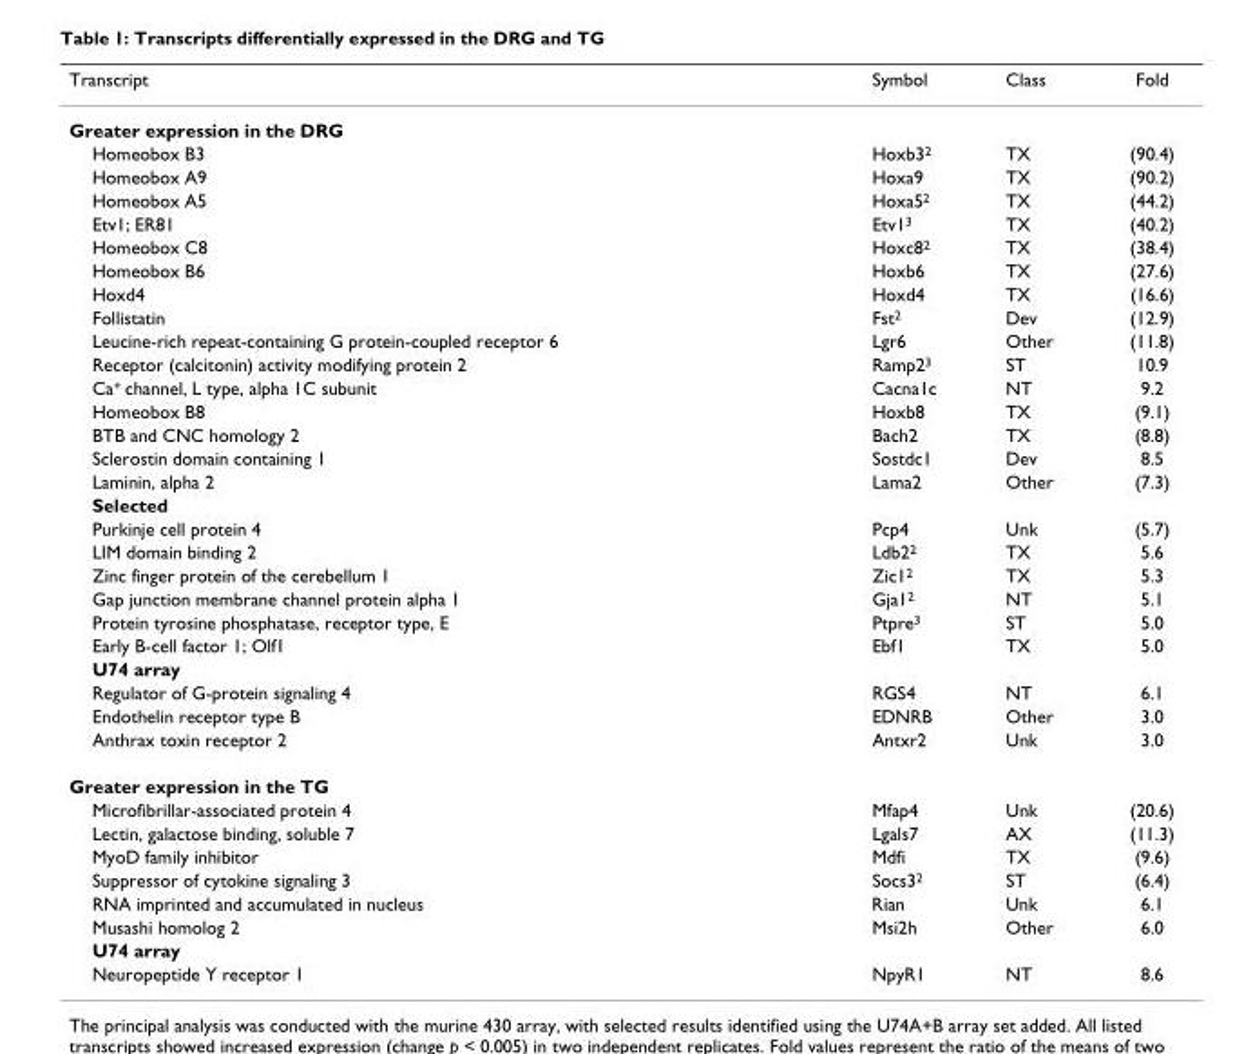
<table><thead><tr><td>Transcript</td><td>Symbol</td><td>Class</td><td>Fold</td></tr></thead><tbody><tr><td colspan="4">Greater expression in the DRG</td></tr><tr><td>Homeobox B3</td><td>Hoxb3<sup>2</sup></td><td>TX</td><td>(90.4)</td></tr><tr><td>Homeobox A9</td><td>Hoxa9</td><td>TX</td><td>(90.2)</td></tr><tr><td>Homeobox A5</td><td>Hoxa5<sup>2</sup></td><td>TX</td><td>(44.2)</td></tr><tr><td>Etv1; ER81</td><td>Etv1<sup>3</sup></td><td>TX</td><td>(40.2)</td></tr><tr><td>Homeobox C8</td><td>Hoxc8<sup>2</sup></td><td>TX</td><td>(38.4)</td></tr><tr><td>Homeobox B6</td><td>Hoxb6</td><td>TX</td><td>(27.6)</td></tr><tr><td>Hoxd4</td><td>Hoxd4</td><td>TX</td><td>(16.6)</td></tr><tr><td>Follistatin</td><td>Fst<sup>2</sup></td><td>Dev</td><td>(12.9)</td></tr><tr><td>Leucine-rich repeat-containing G protein-coupled receptor 6</td><td>Lgr6</td><td>Other</td><td>(11.8)</td></tr><tr><td>Receptor (calcitonin) activity modifying protein 2</td><td>Ramp2<sup>3</sup></td><td>ST</td><td>10.9</td></tr><tr><td>Ca<sup>+</sup> channel, L type, alpha 1C subunit</td><td>Cacna1c</td><td>NT</td><td>9.2</td></tr><tr><td>Homeobox B8</td><td>Hoxb8</td><td>TX</td><td>(9.1)</td></tr><tr><td>BTB and CNC homology 2</td><td>Bach2</td><td>TX</td><td>(8.8)</td></tr><tr><td>Sclerostin domain containing 1</td><td>Sostdc1</td><td>Dev</td><td>8.5</td></tr><tr><td>Laminin, alpha 2</td><td>Lama2</td><td>Other</td><td>(7.3)</td></tr><tr><td colspan="4">Selected</td></tr><tr><td>Purkinje cell protein 4</td><td>Pcp4</td><td>Unk</td><td>(5.7)</td></tr><tr><td>LIM domain binding 2</td><td>Ldb2<sup>2</sup></td><td>TX</td><td>5.6</td></tr><tr><td>Zinc finger protein of the cerebellum 1</td><td>Zic1<sup>2</sup></td><td>TX</td><td>5.3</td></tr><tr><td>Gap junction membrane channel protein alpha 1</td><td>Gja1<sup>2</sup></td><td>NT</td><td>5.1</td></tr><tr><td>Protein tyrosine phosphatase, receptor type, E</td><td>Ptpre<sup>3</sup></td><td>ST</td><td>5.0</td></tr><tr><td>Early B-cell factor 1; Olf1</td><td>Ebf1</td><td>TX</td><td>5.0</td></tr><tr><td colspan="4">U74 array</td></tr><tr><td>Regulator of G-protein signaling 4</td><td>RGS4</td><td>NT</td><td>6.1</td></tr><tr><td>Endothelin receptor type B</td><td>EDNRB</td><td>Other</td><td>3.0</td></tr><tr><td>Anthrax toxin receptor 2</td><td>Antxr2</td><td>Unk</td><td>3.0</td></tr><tr><td colspan="4">Greater expression in the TG</td></tr><tr><td>Microfibrillar-associated protein 4</td><td>Mfap4</td><td>Unk</td><td>(20.6)</td></tr><tr><td>Lectin, galactose binding, soluble 7</td><td>Lgals7</td><td>AX</td><td>(11.3)</td></tr><tr><td>MyoD family inhibitor</td><td>Mdfi</td><td>TX</td><td>(9.6)</td></tr><tr><td>Suppressor of cytokine signaling 3</td><td>Socs3<sup>2</sup></td><td>ST</td><td>(6.4)</td></tr><tr><td>RNA imprinted and accumulated in nucleus</td><td>Rian</td><td>Unk</td><td>6.1</td></tr><tr><td>Musashi homolog 2</td><td>Msi2h</td><td>Other</td><td>6.0</td></tr><tr><td colspan="4">U74 array</td></tr><tr><td>Neuropeptide Y receptor 1</td><td>NpyR1</td><td>NT</td><td>8.6</td></tr></tbody></table>